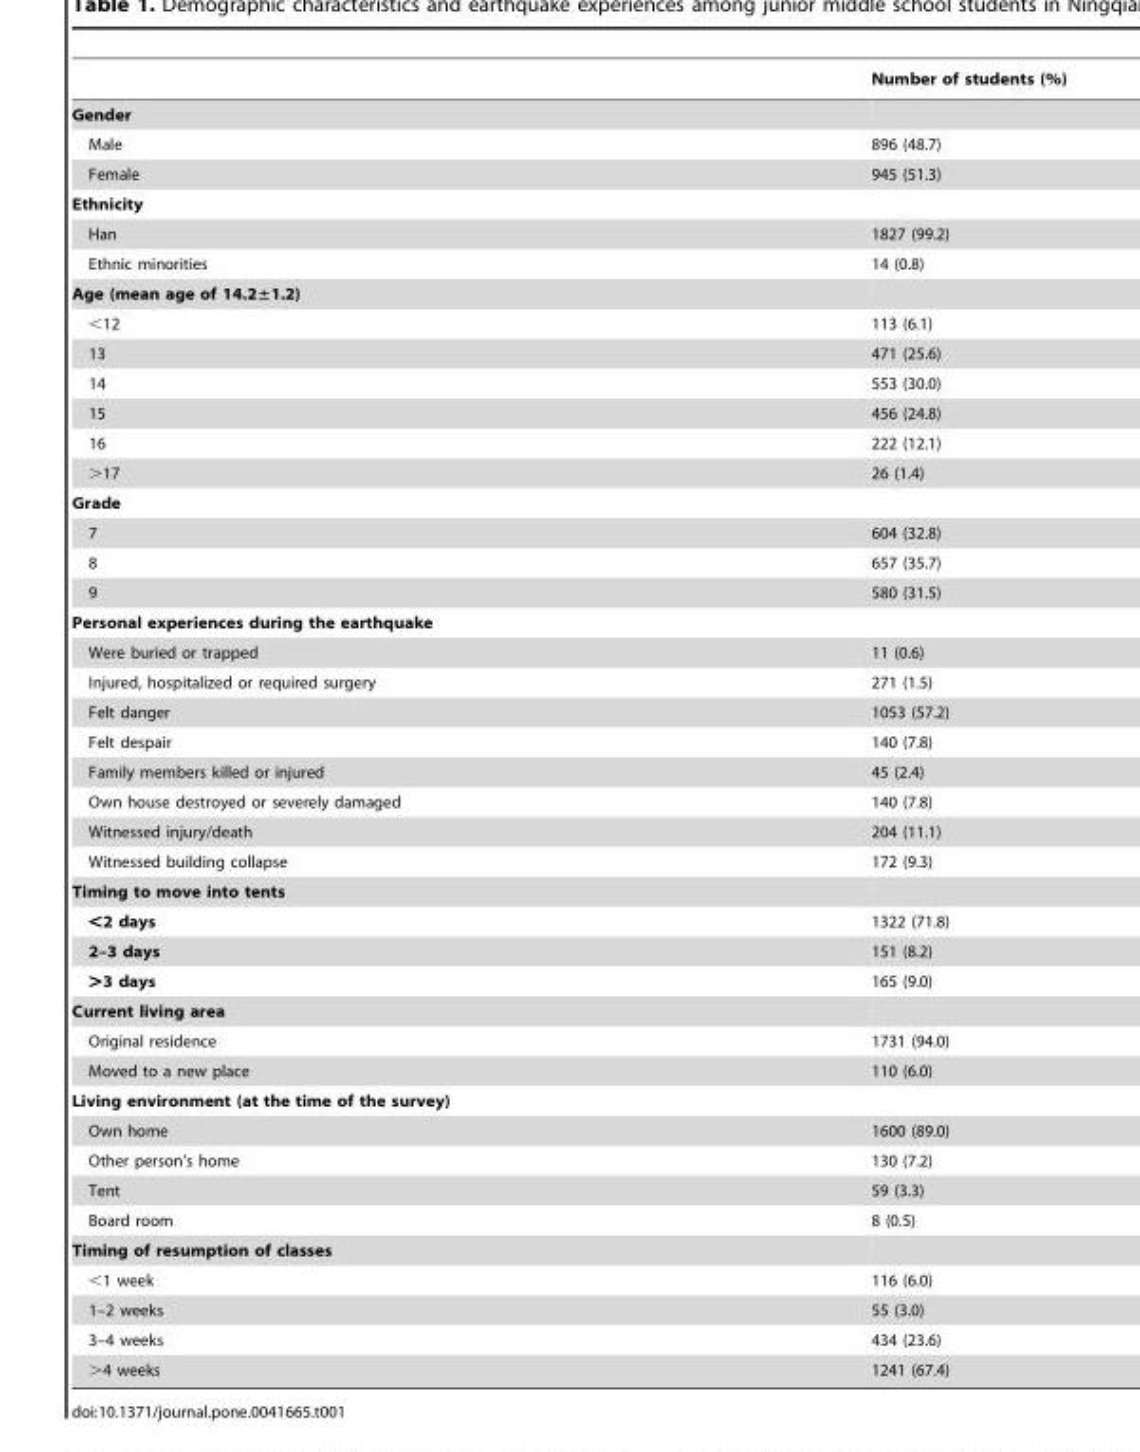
<table><thead><tr><td></td><td>Number of students (%)</td></tr></thead><tbody><tr><td colspan="2">Gender</td></tr><tr><td>Male</td><td>896 (48.7)</td></tr><tr><td>Female</td><td>945 (51.3)</td></tr><tr><td colspan="2">Ethnicity</td></tr><tr><td>Han</td><td>1827 (99.2)</td></tr><tr><td>Ethnic minorities</td><td>14 (0.8)</td></tr><tr><td colspan="2">Age (mean age of 14.2±1.2)</td></tr><tr><td>&lt;12</td><td>113 (6.1)</td></tr><tr><td>13</td><td>471 (25.6)</td></tr><tr><td>14</td><td>553 (30.0)</td></tr><tr><td>15</td><td>456 (24.8)</td></tr><tr><td>16</td><td>222 (12.1)</td></tr><tr><td>&gt;17</td><td>26 (1.4)</td></tr><tr><td colspan="2">Grade</td></tr><tr><td>7</td><td>604 (32.8)</td></tr><tr><td>8</td><td>657 (35.7)</td></tr><tr><td>9</td><td>580 (31.5)</td></tr><tr><td colspan="2">Personal experiences during the earthquake</td></tr><tr><td>Were buried or trapped</td><td>11 (0.6)</td></tr><tr><td>Injured, hospitalized or required surgery</td><td>271 (1.5)</td></tr><tr><td>Felt danger</td><td>1053 (57.2)</td></tr><tr><td>Felt despair</td><td>140 (7.8)</td></tr><tr><td>Family members killed or injured</td><td>45 (2.4)</td></tr><tr><td>Own house destroyed or severely damaged</td><td>140 (7.8)</td></tr><tr><td>Witnessed injury/death</td><td>204 (11.1)</td></tr><tr><td>Witnessed building collapse</td><td>172 (9.3)</td></tr><tr><td colspan="2">Timing to move into tents</td></tr><tr><td>&lt;2 days</td><td>1322 (71.8)</td></tr><tr><td>2–3 days</td><td>151 (8.2)</td></tr><tr><td>&gt;3 days</td><td>165 (9.0)</td></tr><tr><td colspan="2">Current living area</td></tr><tr><td>Original residence</td><td>1731 (94.0)</td></tr><tr><td>Moved to a new place</td><td>110 (6.0)</td></tr><tr><td colspan="2">Living environment (at the time of the survey)</td></tr><tr><td>Own home</td><td>1600 (89.0)</td></tr><tr><td>Other person’s home</td><td>130 (7.2)</td></tr><tr><td>Tent</td><td>59 (3.3)</td></tr><tr><td>Board room</td><td>8 (0.5)</td></tr><tr><td colspan="2">Timing of resumption of classes</td></tr><tr><td>&lt;1 week</td><td>116 (6.0)</td></tr><tr><td>1–2 weeks</td><td>55 (3.0)</td></tr><tr><td>3–4 weeks</td><td>434 (23.6)</td></tr><tr><td>&gt;4 weeks</td><td>1241 (67.4)</td></tr></tbody></table>